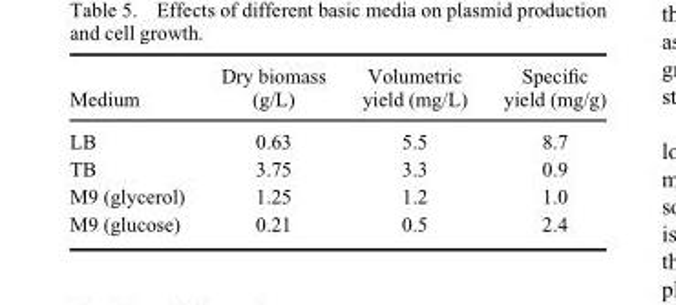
<table><thead><tr><td>Medium</td><td>Dry biomass (g/L)</td><td>Volumetric yield (mg/L)</td><td>Specific yield (mg/g)</td></tr></thead><tbody><tr><td>LB</td><td>0.63</td><td>5.5</td><td>8.7</td></tr><tr><td>TB</td><td>3.75</td><td>3.3</td><td>0.9</td></tr><tr><td>M9 (glycerol)</td><td>1.25</td><td>1.2</td><td>1.0</td></tr><tr><td>M9 (glucose)</td><td>0.21</td><td>0.5</td><td>2.4</td></tr></tbody></table>